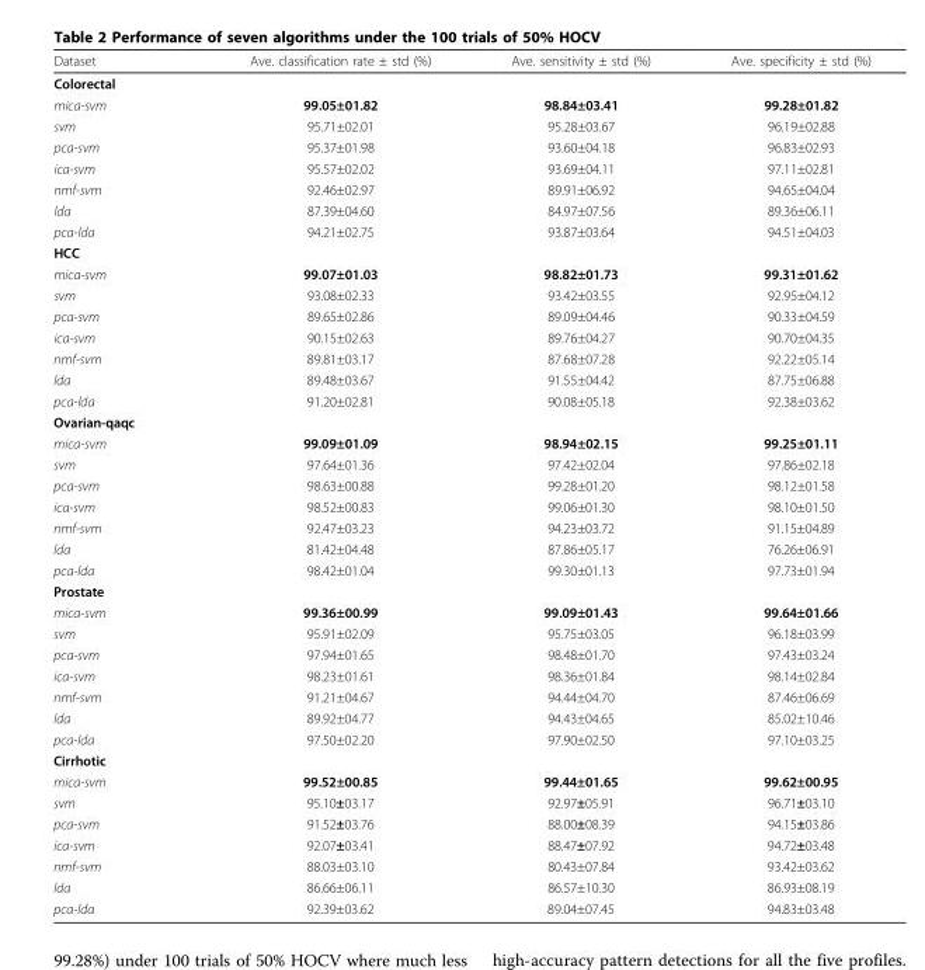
<table><thead><tr><td>Dataset</td><td>Ave. classification rate ± std (%)</td><td>Ave. sensitivity ± std (%)</td><td>Ave. specificity ± std (%)</td></tr></thead><tbody><tr><td colspan="4">Colorectal</td></tr><tr><td>mica-svm</td><td>99.05±01.82</td><td>98.84±03.41</td><td>99.28±01.82</td></tr><tr><td>svm</td><td>95.71±02.01</td><td>95.28±03.67</td><td>96.19±02.88</td></tr><tr><td>pca-svm</td><td>95.37±01.98</td><td>93.60±04.18</td><td>96.83±02.93</td></tr><tr><td>ica-svm</td><td>95.57±02.02</td><td>93.69±04.11</td><td>97.11±02.81</td></tr><tr><td>nmf-svm</td><td>92.46±02.97</td><td>89.91±06.92</td><td>94.65±04.04</td></tr><tr><td>lda</td><td>87.39±04.60</td><td>84.97±07.56</td><td>89.36±06.11</td></tr><tr><td>pca-lda</td><td>94.21±02.75</td><td>93.87±03.64</td><td>94.51±04.03</td></tr><tr><td colspan="4">HCC</td></tr><tr><td>mica-svm</td><td>99.07±01.03</td><td>98.82±01.73</td><td>99.31±01.62</td></tr><tr><td>svm</td><td>93.08±02.33</td><td>93.42±03.55</td><td>92.95±04.12</td></tr><tr><td>pca-svm</td><td>89.65±02.86</td><td>89.09±04.46</td><td>90.33±04.59</td></tr><tr><td>ica-svm</td><td>90.15±02.63</td><td>89.76±04.27</td><td>90.70±04.35</td></tr><tr><td>nmf-svm</td><td>89.81±03.17</td><td>87.68±07.28</td><td>92.22±05.14</td></tr><tr><td>lda</td><td>89.48±03.67</td><td>91.55±04.42</td><td>87.75±06.88</td></tr><tr><td>pca-lda</td><td>91.20±02.81</td><td>90.08±05.18</td><td>92.38±03.62</td></tr><tr><td colspan="4">Ovarian-qaqc</td></tr><tr><td>mica-svm</td><td>99.09±01.09</td><td>98.94±02.15</td><td>99.25±01.11</td></tr><tr><td>svm</td><td>97.64±01.36</td><td>97.42±02.04</td><td>97.86±02.18</td></tr><tr><td>pca-svm</td><td>98.63±00.88</td><td>99.28±01.20</td><td>98.12±01.58</td></tr><tr><td>ica-svm</td><td>98.52±00.83</td><td>99.06±01.30</td><td>98.10±01.50</td></tr><tr><td>nmf-svm</td><td>92.47±03.23</td><td>94.23±03.72</td><td>91.15±04.89</td></tr><tr><td>lda</td><td>81.42±04.48</td><td>87.86±05.17</td><td>76.26±06.91</td></tr><tr><td>pca-lda</td><td>98.42±01.04</td><td>99.30±01.13</td><td>97.73±01.94</td></tr><tr><td colspan="4">Prostate</td></tr><tr><td>mica-svm</td><td>99.36±00.99</td><td>99.09±01.43</td><td>99.64±01.66</td></tr><tr><td>svm</td><td>95.91±02.09</td><td>95.75±03.05</td><td>96.18±03.99</td></tr><tr><td>pca-svm</td><td>97.94±01.65</td><td>98.48±01.70</td><td>97.43±03.24</td></tr><tr><td>ica-svm</td><td>98.23±01.61</td><td>98.36±01.84</td><td>98.14±02.84</td></tr><tr><td>nmf-svm</td><td>91.21±04.67</td><td>94.44±04.70</td><td>87.46±06.69</td></tr><tr><td>lda</td><td>89.92±04.77</td><td>94.43±04.65</td><td>85.02±10.46</td></tr><tr><td>pca-lda</td><td>97.50±02.20</td><td>97.90±02.50</td><td>97.10±03.25</td></tr><tr><td colspan="4">Cirrhotic</td></tr><tr><td>mica-svm</td><td>99.52±00.85</td><td>99.44±01.65</td><td>99.62±00.95</td></tr><tr><td>svm</td><td>95.10±03.17</td><td>92.97±05.91</td><td>96.71±03.10</td></tr><tr><td>pca-svm</td><td>91.52±03.76</td><td>88.00±08.39</td><td>94.15±03.86</td></tr><tr><td>ica-svm</td><td>92.07±03.41</td><td>88.47±07.92</td><td>94.72±03.48</td></tr><tr><td>nmf-svm</td><td>88.03±03.10</td><td>80.43±07.84</td><td>93.42±03.62</td></tr><tr><td>lda</td><td>86.66±06.11</td><td>86.57±10.30</td><td>86.93±08.19</td></tr><tr><td>pca-lda</td><td>92.39±03.62</td><td>89.04±07.45</td><td>94.83±03.48</td></tr></tbody></table>